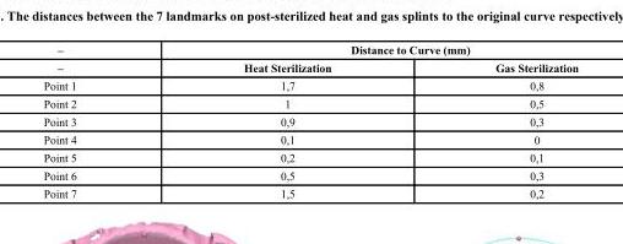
<table><thead><tr><td rowspan="2">– –</td><td colspan="2">Distance to Curve (mm)</td></tr><tr><td>Heat Sterilization</td><td>Gas Sterilization</td></tr></thead><tbody><tr><td>Point 1</td><td>1,7</td><td>0,8</td></tr><tr><td>Point 2</td><td>1</td><td>0,5</td></tr><tr><td>Point 3</td><td>0,9</td><td>0,3</td></tr><tr><td>Point 4</td><td>0,1</td><td>0</td></tr><tr><td>Point 5</td><td>0,2</td><td>0,1</td></tr><tr><td>Point 6</td><td>0,5</td><td>0,3</td></tr><tr><td>Point 7</td><td>1,5</td><td>0,2</td></tr></tbody></table>